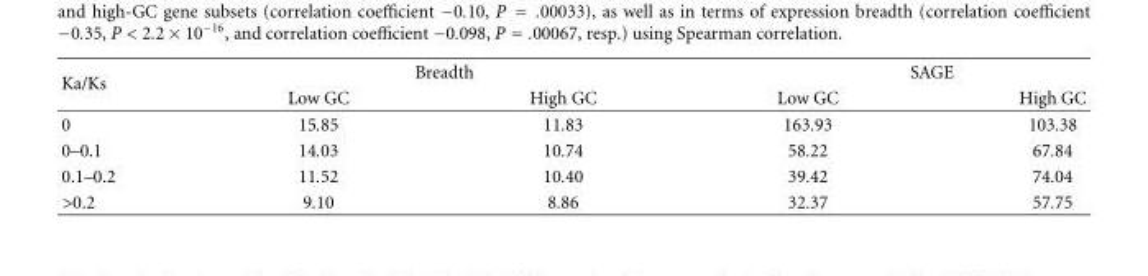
<table><thead><tr><td rowspan="2">Ka/Ks</td><td colspan="2">Breadth</td><td colspan="2">SAGE</td></tr><tr><td>Low GC</td><td>High GC</td><td>Low GC</td><td>High GC</td></tr></thead><tbody><tr><td>0</td><td>15.85</td><td>11.83</td><td>163.93</td><td>103.38</td></tr><tr><td>0–0.1</td><td>14.03</td><td>10.74</td><td>58.22</td><td>67.84</td></tr><tr><td>0.1–0.2</td><td>11.52</td><td>10.40</td><td>39.42</td><td>74.04</td></tr><tr><td>&gt;0.2</td><td>9.10</td><td>8.86</td><td>32.37</td><td>57.75</td></tr></tbody></table>